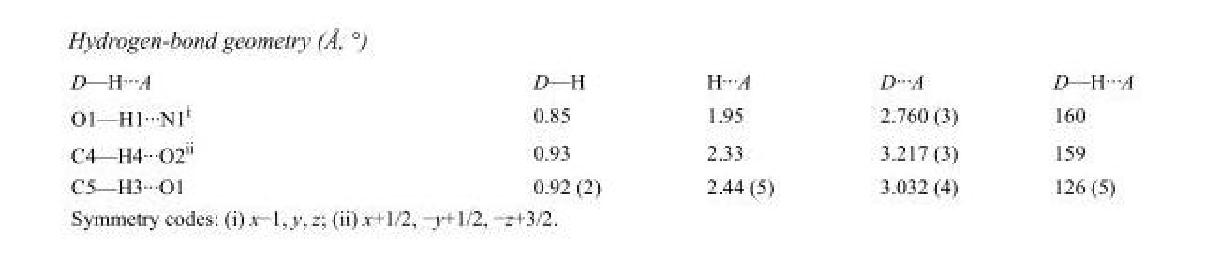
<table><tbody><tr><td>D—H···A</td><td>D—H</td><td>H···A</td><td>D···A</td><td>D—H···A</td></tr><tr><td>O1—H1···N1<sup>i</sup></td><td>0.85</td><td>1.95</td><td>2.760 (3)</td><td>160</td></tr><tr><td>C4—H4···O2<sup>ii</sup></td><td>0.93</td><td>2.33</td><td>3.217 (3)</td><td>159</td></tr><tr><td>C5—H3···O1</td><td>0.92 (2)</td><td>2.44 (5)</td><td>3.032 (4)</td><td>126 (5)</td></tr></tbody></table>